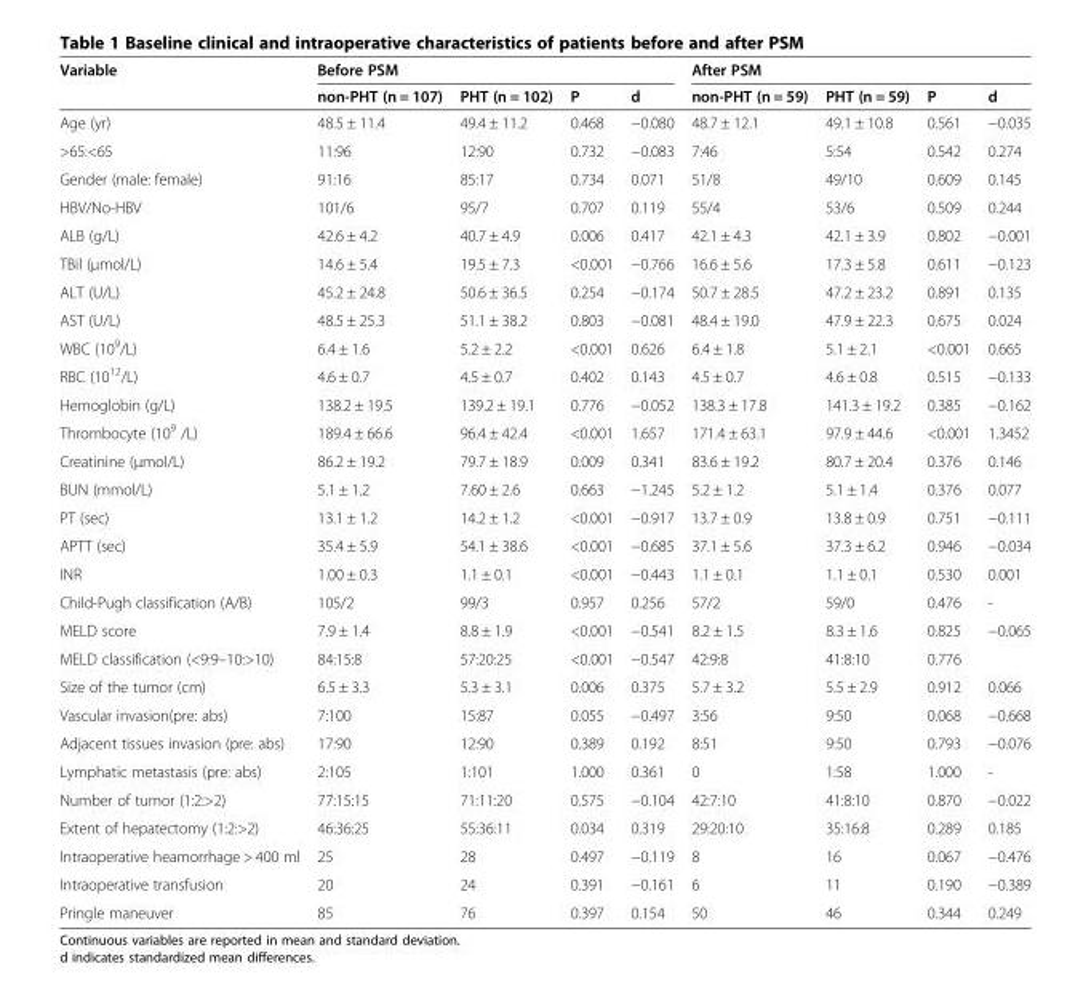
<table><thead><tr><td rowspan="2">Variable</td><td colspan="4">Before PSM</td><td colspan="4">After PSM</td></tr><tr><td>non-PHT (n = 107)</td><td>PHT (n = 102)</td><td>P</td><td>d</td><td>non-PHT (n = 59)</td><td>PHT (n = 59)</td><td>P</td><td>d</td></tr></thead><tbody><tr><td>Age (yr)</td><td>48.5 ± 11.4</td><td>49.4 ± 11.2</td><td>0.468</td><td>−0.080</td><td>48.7 ± 12.1</td><td>49.1 ± 10.8</td><td>0.561</td><td>−0.035</td></tr><tr><td>&gt;65:&lt;65</td><td>11:96</td><td>12:90</td><td>0.732</td><td>−0.083</td><td>7:46</td><td>5:54</td><td>0.542</td><td>0.274</td></tr><tr><td>Gender (male: female)</td><td>91:16</td><td>85:17</td><td>0.734</td><td>0.071</td><td>51/8</td><td>49/10</td><td>0.609</td><td>0.145</td></tr><tr><td>HBV/No-HBV</td><td>101/6</td><td>95/7</td><td>0.707</td><td>0.119</td><td>55/4</td><td>53/6</td><td>0.509</td><td>0.244</td></tr><tr><td>ALB (g/L)</td><td>42.6 ± 4.2</td><td>40.7 ± 4.9</td><td>0.006</td><td>0.417</td><td>42.1 ± 4.3</td><td>42.1 ± 3.9</td><td>0.802</td><td>−0.001</td></tr><tr><td>TBil (μmol/L)</td><td>14.6 ± 5.4</td><td>19.5 ± 7.3</td><td>&lt;0.001</td><td>−0.766</td><td>16.6 ± 5.6</td><td>17.3 ± 5.8</td><td>0.611</td><td>−0.123</td></tr><tr><td>ALT (U/L)</td><td>45.2 ± 24.8</td><td>50.6 ± 36.5</td><td>0.254</td><td>−0.174</td><td>50.7 ± 28.5</td><td>47.2 ± 23.2</td><td>0.891</td><td>0.135</td></tr><tr><td>AST (U/L)</td><td>48.5 ± 25.3</td><td>51.1 ± 38.2</td><td>0.803</td><td>−0.081</td><td>48.4 ± 19.0</td><td>47.9 ± 22.3</td><td>0.675</td><td>0.024</td></tr><tr><td>WBC (10<sup>9</sup>/L)</td><td>6.4 ± 1.6</td><td>5.2 ± 2.2</td><td>&lt;0.001</td><td>0.626</td><td>6.4 ± 1.8</td><td>5.1 ± 2.1</td><td>&lt;0.001</td><td>0.665</td></tr><tr><td>RBC (10<sup>12</sup>/L)</td><td>4.6 ± 0.7</td><td>4.5 ± 0.7</td><td>0.402</td><td>0.143</td><td>4.5 ± 0.7</td><td>4.6 ± 0.8</td><td>0.515</td><td>−0.133</td></tr><tr><td>Hemoglobin (g/L)</td><td>138.2 ± 19.5</td><td>139.2 ± 19.1</td><td>0.776</td><td>−0.052</td><td>138.3 ± 17.8</td><td>141.3 ± 19.2</td><td>0.385</td><td>−0.162</td></tr><tr><td>Thrombocyte (10<sup>9</sup> /L)</td><td>189.4 ± 66.6</td><td>96.4 ± 42.4</td><td>&lt;0.001</td><td>1.657</td><td>171.4 ± 63.1</td><td>97.9 ± 44.6</td><td>&lt;0.001</td><td>1.3452</td></tr><tr><td>Creatinine (μmol/L)</td><td>86.2 ± 19.2</td><td>79.7 ± 18.9</td><td>0.009</td><td>0.341</td><td>83.6 ± 19.2</td><td>80.7 ± 20.4</td><td>0.376</td><td>0.146</td></tr><tr><td>BUN (mmol/L)</td><td>5.1 ± 1.2</td><td>7.60 ± 2.6</td><td>0.663</td><td>−1.245</td><td>5.2 ± 1.2</td><td>5.1 ± 1.4</td><td>0.376</td><td>0.077</td></tr><tr><td>PT (sec)</td><td>13.1 ± 1.2</td><td>14.2 ± 1.2</td><td>&lt;0.001</td><td>−0.917</td><td>13.7 ± 0.9</td><td>13.8 ± 0.9</td><td>0.751</td><td>−0.111</td></tr><tr><td>APTT (sec)</td><td>35.4 ± 5.9</td><td>54.1 ± 38.6</td><td>&lt;0.001</td><td>−0.685</td><td>37.1 ± 5.6</td><td>37.3 ± 6.2</td><td>0.946</td><td>−0.034</td></tr><tr><td>INR</td><td>1.00 ± 0.3</td><td>1.1 ± 0.1</td><td>&lt;0.001</td><td>−0.443</td><td>1.1 ± 0.1</td><td>1.1 ± 0.1</td><td>0.530</td><td>0.001</td></tr><tr><td>Child-Pugh classification (A/B)</td><td>105/2</td><td>99/3</td><td>0.957</td><td>0.256</td><td>57/2</td><td>59/0</td><td>0.476</td><td>-</td></tr><tr><td>MELD score</td><td>7.9 ± 1.4</td><td>8.8 ± 1.9</td><td>&lt;0.001</td><td>−0.541</td><td>8.2 ± 1.5</td><td>8.3 ± 1.6</td><td>0.825</td><td>−0.065</td></tr><tr><td>MELD classification (&lt;9:9–10:&gt;10)</td><td>84:15:8</td><td>57:20:25</td><td>&lt;0.001</td><td>−0.547</td><td>42:9:8</td><td>41:8:10</td><td>0.776</td><td></td></tr><tr><td>Size of the tumor (cm)</td><td>6.5 ± 3.3</td><td>5.3 ± 3.1</td><td>0.006</td><td>0.375</td><td>5.7 ± 3.2</td><td>5.5 ± 2.9</td><td>0.912</td><td>0.066</td></tr><tr><td>Vascular invasion(pre: abs)</td><td>7:100</td><td>15:87</td><td>0.055</td><td>−0.497</td><td>3:56</td><td>9:50</td><td>0.068</td><td>−0.668</td></tr><tr><td>Adjacent tissues invasion (pre: abs)</td><td>17:90</td><td>12:90</td><td>0.389</td><td>0.192</td><td>8:51</td><td>9:50</td><td>0.793</td><td>−0.076</td></tr><tr><td>Lymphatic metastasis (pre: abs)</td><td>2:105</td><td>1:101</td><td>1.000</td><td>0.361</td><td>0</td><td>1:58</td><td>1.000</td><td>-</td></tr><tr><td>Number of tumor (1:2:&gt;2)</td><td>77:15:15</td><td>71:11:20</td><td>0.575</td><td>−0.104</td><td>42:7:10</td><td>41:8:10</td><td>0.870</td><td>−0.022</td></tr><tr><td>Extent of hepatectomy (1:2:&gt;2)</td><td>46:36:25</td><td>55:36:11</td><td>0.034</td><td>0.319</td><td>29:20:10</td><td>35:16:8</td><td>0.289</td><td>0.185</td></tr><tr><td>Intraoperative heamorrhage &gt; 400 ml</td><td>25</td><td>28</td><td>0.497</td><td>−0.119</td><td>8</td><td>16</td><td>0.067</td><td>−0.476</td></tr><tr><td>Intraoperative transfusion</td><td>20</td><td>24</td><td>0.391</td><td>−0.161</td><td>6</td><td>11</td><td>0.190</td><td>−0.389</td></tr><tr><td>Pringle maneuver</td><td>85</td><td>76</td><td>0.397</td><td>0.154</td><td>50</td><td>46</td><td>0.344</td><td>0.249</td></tr></tbody></table>